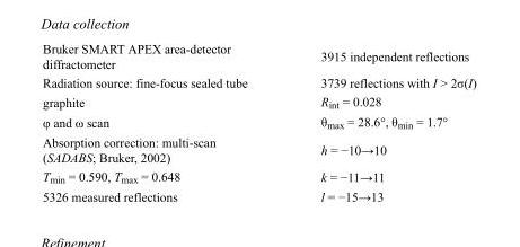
<table><tbody><tr><td>Bruker SMART APEX area-detector diffractometer</td><td>3915 independent reflections</td></tr><tr><td>Radiation source: fine-focus sealed tube</td><td>3739 reflections with I &gt; 2σ(I)</td></tr><tr><td>graphite</td><td>R<sub>int</sub> = 0.028</td></tr><tr><td>φ and ω scan</td><td>θ<sub>max</sub> = 28.6°, θ<sub>min</sub> = 1.7°</td></tr><tr><td>Absorption correction: multi-scan (SADABS; Bruker, 2002)</td><td>h = −10→10</td></tr><tr><td>T<sub>min</sub> = 0.590, T<sub>max</sub> = 0.648</td><td>k = −11→11</td></tr><tr><td>5326 measured reflections</td><td>l = −15→13</td></tr></tbody></table>